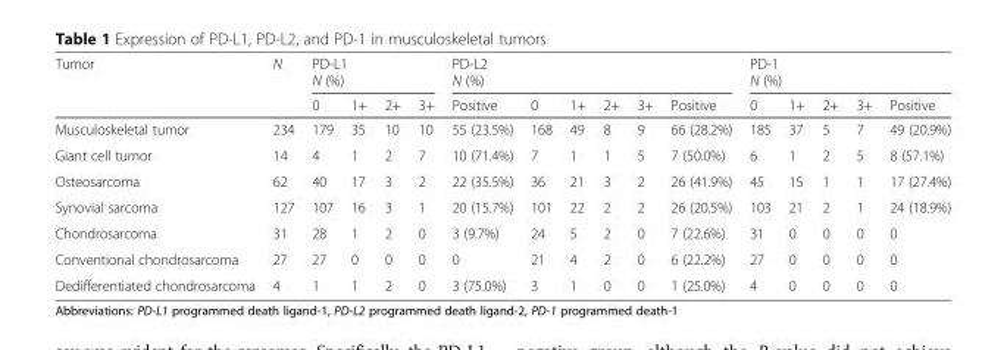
<table><thead><tr><td rowspan="2">Tumor</td><td rowspan="2">N</td><td colspan="4">PD-L1 N (%)</td><td colspan="6">PD-L2 N (%)</td><td colspan="5">PD-1 N (%)</td></tr><tr><td>0</td><td>1+</td><td>2+</td><td>3+</td><td>Positive</td><td>0</td><td>1+</td><td>2+</td><td>3+</td><td>Positive</td><td>0</td><td>1+</td><td>2+</td><td>3+</td><td>Positive</td></tr></thead><tbody><tr><td>Musculoskeletal tumor</td><td>234</td><td>179</td><td>35</td><td>10</td><td>10</td><td>55 (23.5%)</td><td>168</td><td>49</td><td>8</td><td>9</td><td>66 (28.2%)</td><td>185</td><td>37</td><td>5</td><td>7</td><td>49 (20.9%)</td></tr><tr><td>Giant cell tumor</td><td>14</td><td>4</td><td>1</td><td>2</td><td>7</td><td>10 (71.4%)</td><td>7</td><td>1</td><td>1</td><td>5</td><td>7 (50.0%)</td><td>6</td><td>1</td><td>2</td><td>5</td><td>8 (57.1%)</td></tr><tr><td>Osteosarcoma</td><td>62</td><td>40</td><td>17</td><td>3</td><td>2</td><td>22 (35.5%)</td><td>36</td><td>21</td><td>3</td><td>2</td><td>26 (41.9%)</td><td>45</td><td>15</td><td>1</td><td>1</td><td>17 (27.4%)</td></tr><tr><td>Synovial sarcoma</td><td>127</td><td>107</td><td>16</td><td>3</td><td>1</td><td>20 (15.7%)</td><td>101</td><td>22</td><td>2</td><td>2</td><td>26 (20.5%)</td><td>103</td><td>21</td><td>2</td><td>1</td><td>24 (18.9%)</td></tr><tr><td>Chondrosarcoma</td><td>31</td><td>28</td><td>1</td><td>2</td><td>0</td><td>3 (9.7%)</td><td>24</td><td>5</td><td>2</td><td>0</td><td>7 (22.6%)</td><td>31</td><td>0</td><td>0</td><td>0</td><td>0</td></tr><tr><td>Conventional chondrosarcoma</td><td>27</td><td>27</td><td>0</td><td>0</td><td>0</td><td>0</td><td>21</td><td>4</td><td>2</td><td>0</td><td>6 (22.2%)</td><td>27</td><td>0</td><td>0</td><td>0</td><td>0</td></tr><tr><td>Dedifferentiated chondrosarcoma</td><td>4</td><td>1</td><td>1</td><td>2</td><td>0</td><td>3 (75.0%)</td><td>3</td><td>1</td><td>0</td><td>0</td><td>1 (25.0%)</td><td>4</td><td>0</td><td>0</td><td>0</td><td>0</td></tr></tbody></table>